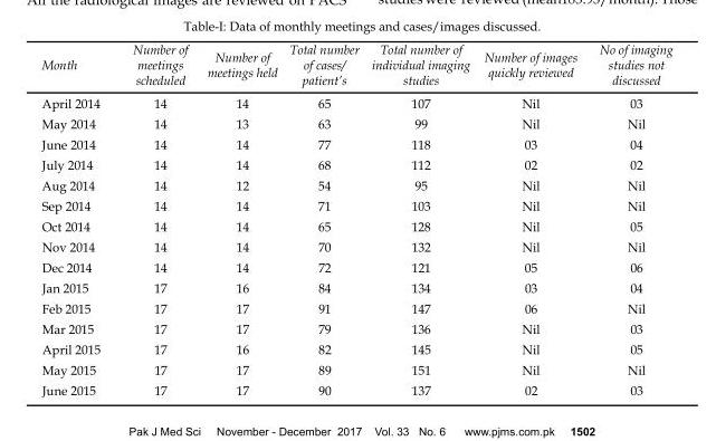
<table><thead><tr><td>Month</td><td>Number of meetings scheduled</td><td>Number of meetings held</td><td>Total number of cases/ patient’s</td><td>Total number of individual imaging studies</td><td>Number of images quickly reviewed</td><td>No of imaging studies not discussed</td></tr></thead><tbody><tr><td>April 2014</td><td>14</td><td>14</td><td>65</td><td>107</td><td>Nil</td><td>03</td></tr><tr><td>May 2014</td><td>14</td><td>13</td><td>63</td><td>99</td><td>Nil</td><td>Nil</td></tr><tr><td>June 2014</td><td>14</td><td>14</td><td>77</td><td>118</td><td>03</td><td>04</td></tr><tr><td>July 2014</td><td>14</td><td>14</td><td>68</td><td>112</td><td>02</td><td>02</td></tr><tr><td>Aug 2014</td><td>14</td><td>12</td><td>54</td><td>95</td><td>Nil</td><td>Nil</td></tr><tr><td>Sep 2014</td><td>14</td><td>14</td><td>71</td><td>103</td><td>Nil</td><td>Nil</td></tr><tr><td>Oct 2014</td><td>14</td><td>14</td><td>65</td><td>128</td><td>Nil</td><td>05</td></tr><tr><td>Nov 2014</td><td>14</td><td>14</td><td>70</td><td>132</td><td>Nil</td><td>Nil</td></tr><tr><td>Dec 2014</td><td>14</td><td>14</td><td>72</td><td>121</td><td>05</td><td>06</td></tr><tr><td>Jan 2015</td><td>17</td><td>16</td><td>84</td><td>134</td><td>03</td><td>04</td></tr><tr><td>Feb 2015</td><td>17</td><td>17</td><td>91</td><td>147</td><td>06</td><td>Nil</td></tr><tr><td>Mar 2015</td><td>17</td><td>17</td><td>79</td><td>136</td><td>Nil</td><td>03</td></tr><tr><td>April 2015</td><td>17</td><td>16</td><td>82</td><td>145</td><td>Nil</td><td>05</td></tr><tr><td>May 2015</td><td>17</td><td>17</td><td>89</td><td>151</td><td>Nil</td><td>Nil</td></tr><tr><td>June 2015</td><td>17</td><td>17</td><td>90</td><td>137</td><td>02</td><td>03</td></tr></tbody></table>